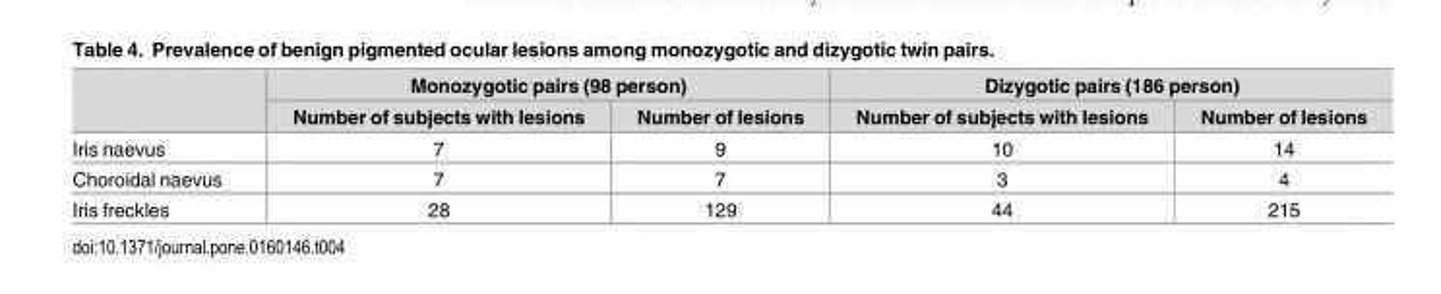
<table><thead><tr><td rowspan="2"></td><td colspan="2">Monozygotic pairs (98 person)</td><td colspan="2">Dizygotic pairs (186 person)</td></tr><tr><td>Number of subjects with lesions</td><td>Number of lesions</td><td>Number of subjects with lesions</td><td>Number of lesions</td></tr></thead><tbody><tr><td>Iris naevus</td><td>7</td><td>9</td><td>10</td><td>14</td></tr><tr><td>Choroidal naevus</td><td>7</td><td>7</td><td>3</td><td>4</td></tr><tr><td>Iris freckles</td><td>28</td><td>129</td><td>44</td><td>215</td></tr></tbody></table>